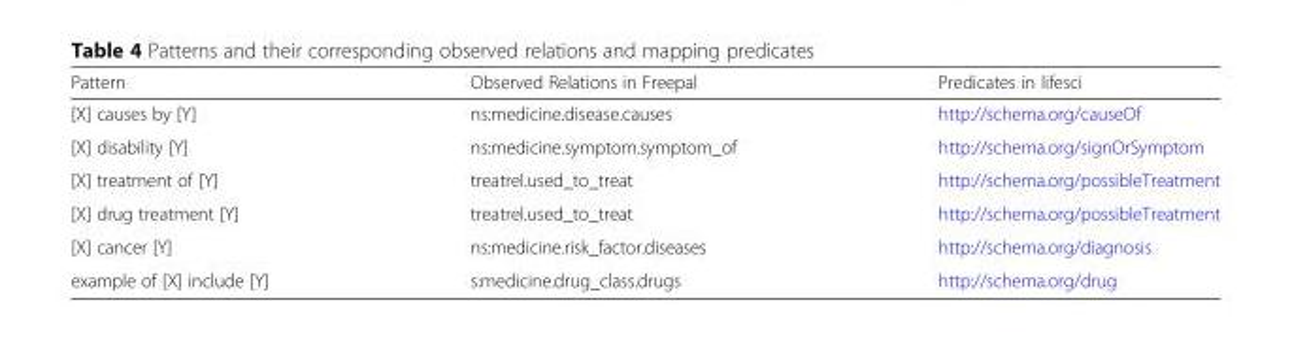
<table><thead><tr><td>Pattern</td><td>Observed Relations in Freepal</td><td>Predicates in lifesci</td></tr></thead><tbody><tr><td>[X] causes by [Y]</td><td>ns:medicine.disease.causes</td><td>http://schema.org/causeOf</td></tr><tr><td>[X] disability [Y]</td><td>ns:medicine.symptom.symptom_of</td><td>http://schema.org/signOrSymptom</td></tr><tr><td>[X] treatment of [Y]</td><td>treatrel.used_to_treat</td><td>http://schema.org/possibleTreatment</td></tr><tr><td>[X] drug treatment [Y]</td><td>treatrel.used_to_treat</td><td>http://schema.org/possibleTreatment</td></tr><tr><td>[X] cancer [Y]</td><td>ns:medicine.risk_factor.diseases</td><td>http://schema.org/diagnosis</td></tr><tr><td>example of [X] include [Y]</td><td>s:medicine.drug_class.drugs</td><td>http://schema.org/drug</td></tr></tbody></table>